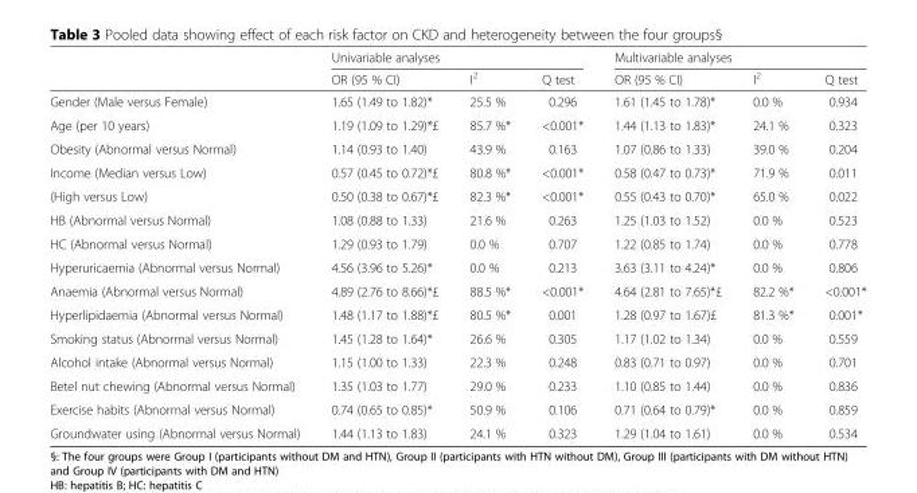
<table><thead><tr><td rowspan="2"></td><td colspan="3">Univariable analyses</td><td colspan="3">Multivariable analyses</td></tr><tr><td>OR (95 % CI)</td><td>I<sup>2</sup></td><td>Q test</td><td>OR (95 % CI)</td><td>I<sup>2</sup></td><td>Q test</td></tr></thead><tbody><tr><td>Gender (Male versus Female)</td><td>1.65 (1.49 to 1.82)*</td><td>25.5 %</td><td>0.296</td><td>1.61 (1.45 to 1.78)*</td><td>0.0 %</td><td>0.934</td></tr><tr><td>Age (per 10 years)</td><td>1.19 (1.09 to 1.29)*£</td><td>85.7 %*</td><td>&lt;0.001*</td><td>1.44 (1.13 to 1.83)*</td><td>24.1 %</td><td>0.323</td></tr><tr><td>Obesity (Abnormal versus Normal)</td><td>1.14 (0.93 to 1.40)</td><td>43.9 %</td><td>0.163</td><td>1.07 (0.86 to 1.33)</td><td>39.0 %</td><td>0.204</td></tr><tr><td>Income (Median versus Low)</td><td>0.57 (0.45 to 0.72)*£</td><td>80.8 %*</td><td>&lt;0.001*</td><td>0.58 (0.47 to 0.73)*</td><td>71.9 %</td><td>0.011</td></tr><tr><td>(High versus Low)</td><td>0.50 (0.38 to 0.67)*£</td><td>82.3 %*</td><td>&lt;0.001*</td><td>0.55 (0.43 to 0.70)*</td><td>65.0 %</td><td>0.022</td></tr><tr><td>HB (Abnormal versus Normal)</td><td>1.08 (0.88 to 1.33)</td><td>21.6 %</td><td>0.263</td><td>1.25 (1.03 to 1.52)</td><td>0.0 %</td><td>0.523</td></tr><tr><td>HC (Abnormal versus Normal)</td><td>1.29 (0.93 to 1.79)</td><td>0.0 %</td><td>0.707</td><td>1.22 (0.85 to 1.74)</td><td>0.0 %</td><td>0.778</td></tr><tr><td>Hyperuricaemia (Abnormal versus Normal)</td><td>4.56 (3.96 to 5.26)*</td><td>0.0 %</td><td>0.213</td><td>3.63 (3.11 to 4.24)*</td><td>0.0 %</td><td>0.806</td></tr><tr><td>Anaemia (Abnormal versus Normal)</td><td>4.89 (2.76 to 8.66)*£</td><td>88.5 %*</td><td>&lt;0.001*</td><td>4.64 (2.81 to 7.65)*£</td><td>82.2 %*</td><td>&lt;0.001*</td></tr><tr><td>Hyperlipidaemia (Abnormal versus Normal)</td><td>1.48 (1.17 to 1.88)*£</td><td>80.5 %*</td><td>0.001</td><td>1.28 (0.97 to 1.67)£</td><td>81.3 %*</td><td>0.001*</td></tr><tr><td>Smoking status (Abnormal versus Normal)</td><td>1.45 (1.28 to 1.64)*</td><td>26.6 %</td><td>0.305</td><td>1.17 (1.02 to 1.34)</td><td>0.0 %</td><td>0.559</td></tr><tr><td>Alcohol intake (Abnormal versus Normal)</td><td>1.15 (1.00 to 1.33)</td><td>22.3 %</td><td>0.248</td><td>0.83 (0.71 to 0.97)</td><td>0.0 %</td><td>0.701</td></tr><tr><td>Betel nut chewing (Abnormal versus Normal)</td><td>1.35 (1.03 to 1.77)</td><td>29.0 %</td><td>0.233</td><td>1.10 (0.85 to 1.44)</td><td>0.0 %</td><td>0.836</td></tr><tr><td>Exercise habits (Abnormal versus Normal)</td><td>0.74 (0.65 to 0.85)*</td><td>50.9 %</td><td>0.106</td><td>0.71 (0.64 to 0.79)*</td><td>0.0 %</td><td>0.859</td></tr><tr><td>Groundwater using (Abnormal versus Normal)</td><td>1.44 (1.13 to 1.83)</td><td>24.1 %</td><td>0.323</td><td>1.29 (1.04 to 1.61)</td><td>0.0 %</td><td>0.534</td></tr></tbody></table>